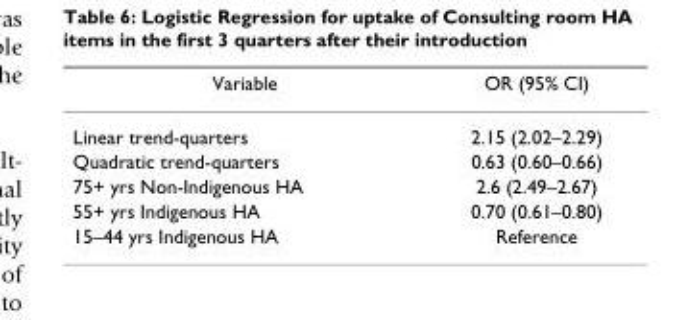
<table><thead><tr><td>Variable</td><td>OR (95% CI)</td></tr></thead><tbody><tr><td>Linear trend-quarters</td><td>2.15 (2.02–2.29)</td></tr><tr><td>Quadratic trend-quarters</td><td>0.63 (0.60–0.66)</td></tr><tr><td>75+ yrs Non-Indigenous HA</td><td>2.6 (2.49–2.67)</td></tr><tr><td>55+ yrs Indigenous HA</td><td>0.70 (0.61–0.80)</td></tr><tr><td>15–44 yrs Indigenous HA</td><td>Reference</td></tr></tbody></table>